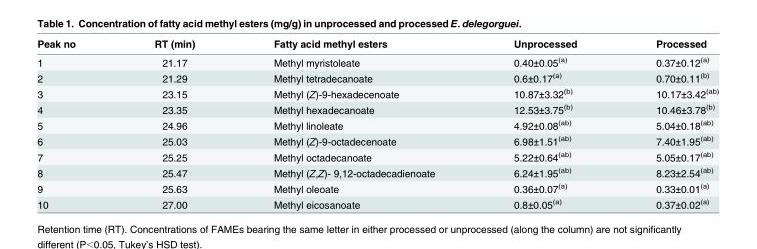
<table><thead><tr><td>Peak no</td><td>RT (min)</td><td>Fatty acid methyl esters</td><td>Unprocessed</td><td>Processed</td></tr></thead><tbody><tr><td>1</td><td>21.17</td><td>Methyl myristoleate</td><td>0.40±0.05<sup>(a)</sup></td><td>0.37±0.12<sup>(a)</sup></td></tr><tr><td>2</td><td>21.29</td><td>Methyl tetradecanoate</td><td>0.6±0.17<sup>(a)</sup></td><td>0.70±0.11<sup>(b)</sup></td></tr><tr><td>3</td><td>23.15</td><td>Methyl (Z)-9-hexadecenoate</td><td>10.87±3.32<sup>(b)</sup></td><td>10.17±3.42<sup>(ab)</sup></td></tr><tr><td>4</td><td>23.35</td><td>Methyl hexadecanoate</td><td>12.53±3.75<sup>(b)</sup></td><td>10.46±3.78<sup>(b)</sup></td></tr><tr><td>5</td><td>24.96</td><td>Methyl linoleate</td><td>4.92±0.08<sup>(ab)</sup></td><td>5.04±0.18<sup>(ab)</sup></td></tr><tr><td>6</td><td>25.03</td><td>Methyl (Z)-9-octadecenoate</td><td>6.98±1.51<sup>(ab)</sup></td><td>7.40±1.95<sup>(ab)</sup></td></tr><tr><td>7</td><td>25.25</td><td>Methyl octadecanoate</td><td>5.22±0.64<sup>(ab)</sup></td><td>5.05±0.17<sup>(ab)</sup></td></tr><tr><td>8</td><td>25.47</td><td>Methyl (Z,Z)- 9,12-octadecadienoate</td><td>6.24±1.95<sup>(ab)</sup></td><td>8.23±2.54<sup>(ab)</sup></td></tr><tr><td>9</td><td>25.63</td><td>Methyl oleoate</td><td>0.36±0.07<sup>(a)</sup></td><td>0.33±0.01<sup>(a)</sup></td></tr><tr><td>10</td><td>27.00</td><td>Methyl eicosanoate</td><td>0.8±0.05<sup>(a)</sup></td><td>0.37±0.02<sup>(a)</sup></td></tr></tbody></table>